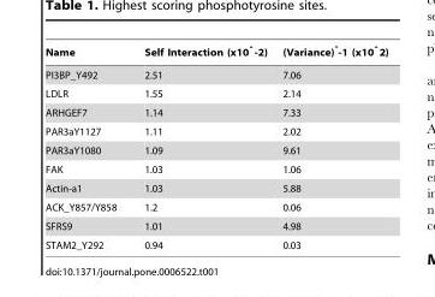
<table><thead><tr><td>Name</td><td>Self Interaction (x10ˆ-2)</td><td>(Variance)ˆ-1 (x10ˆ2)</td></tr></thead><tbody><tr><td>PI3BP_Y492</td><td>2.51</td><td>7.06</td></tr><tr><td>LDLR</td><td>1.55</td><td>2.14</td></tr><tr><td>ARHGEF7</td><td>1.14</td><td>7.33</td></tr><tr><td>PAR3aY1127</td><td>1.11</td><td>2.02</td></tr><tr><td>PAR3aY1080</td><td>1.09</td><td>9.61</td></tr><tr><td>FAK</td><td>1.03</td><td>1.06</td></tr><tr><td>Actin-a1</td><td>1.03</td><td>5.88</td></tr><tr><td>ACK_Y857/Y858</td><td>1.2</td><td>0.06</td></tr><tr><td>SFRS9</td><td>1.01</td><td>4.98</td></tr><tr><td>STAM2_Y292</td><td>0.94</td><td>0.03</td></tr></tbody></table>